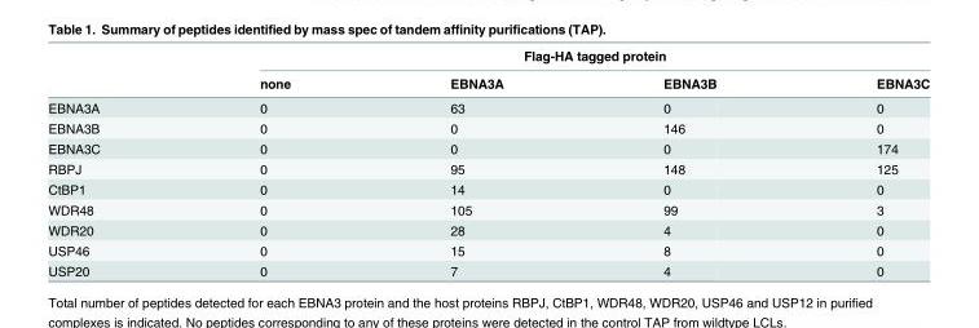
<table><thead><tr><td rowspan="2"></td><td colspan="4">Flag-HA tagged protein</td></tr><tr><td>none</td><td>EBNA3A</td><td>EBNA3B</td><td>EBNA3C</td></tr></thead><tbody><tr><td>EBNA3A</td><td>0</td><td>63</td><td>0</td><td>0</td></tr><tr><td>EBNA3B</td><td>0</td><td>0</td><td>146</td><td>0</td></tr><tr><td>EBNA3C</td><td>0</td><td>0</td><td>0</td><td>174</td></tr><tr><td>RBPJ</td><td>0</td><td>95</td><td>148</td><td>125</td></tr><tr><td>CtBP1</td><td>0</td><td>14</td><td>0</td><td>0</td></tr><tr><td>WDR48</td><td>0</td><td>105</td><td>99</td><td>3</td></tr><tr><td>WDR20</td><td>0</td><td>28</td><td>4</td><td>0</td></tr><tr><td>USP46</td><td>0</td><td>15</td><td>8</td><td>0</td></tr><tr><td>USP20</td><td>0</td><td>7</td><td>4</td><td>0</td></tr></tbody></table>